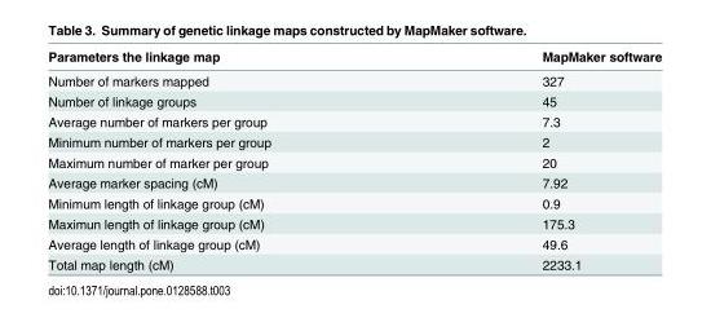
<table><thead><tr><td>Parameters the linkage map</td><td>MapMaker software</td></tr></thead><tbody><tr><td>Number of markers mapped</td><td>327</td></tr><tr><td>Number of linkage groups</td><td>45</td></tr><tr><td>Average number of markers per group</td><td>7.3</td></tr><tr><td>Minimum number of markers per group</td><td>2</td></tr><tr><td>Maximum number of marker per group</td><td>20</td></tr><tr><td>Average marker spacing (cM)</td><td>7.92</td></tr><tr><td>Minimum length of linkage group (cM)</td><td>0.9</td></tr><tr><td>Maximun length of linkage group (cM)</td><td>175.3</td></tr><tr><td>Average length of linkage group (cM)</td><td>49.6</td></tr><tr><td>Total map length (cM)</td><td>2233.1</td></tr></tbody></table>